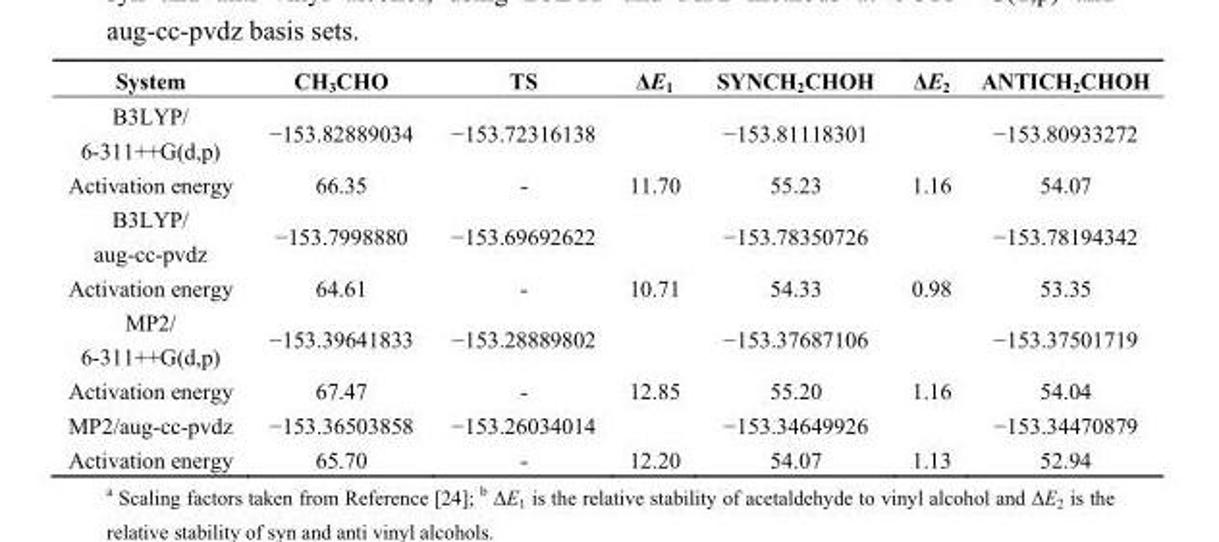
<table><thead><tr><td>System</td><td>CH<sub>3</sub>CHO</td><td>TS</td><td>ΔE<sub>1</sub></td><td>SYNCH<sub>2</sub>CHOH</td><td>ΔE<sub>2</sub></td><td>ANTICH<sub>2</sub>CHOH</td></tr></thead><tbody><tr><td>B3LYP/ 6-311++G(d,p)</td><td>−153.82889034</td><td>−153.72316138</td><td></td><td>−153.81118301</td><td></td><td>−153.80933272</td></tr><tr><td>Activation energy</td><td>66.35</td><td>-</td><td>11.70</td><td>55.23</td><td>1.16</td><td>54.07</td></tr><tr><td>B3LYP/ aug-cc-pvdz</td><td>−153.7998880</td><td>−153.69692622</td><td></td><td>−153.78350726</td><td></td><td>−153.78194342</td></tr><tr><td>Activation energy</td><td>64.61</td><td>-</td><td>10.71</td><td>54.33</td><td>0.98</td><td>53.35</td></tr><tr><td>MP2/ 6-311++G(d,p)</td><td>−153.39641833</td><td>−153.28889802</td><td></td><td>−153.37687106</td><td></td><td>−153.37501719</td></tr><tr><td>Activation energy</td><td>67.47</td><td>-</td><td>12.85</td><td>55.20</td><td>1.16</td><td>54.04</td></tr><tr><td>MP2/aug-cc-pvdz</td><td>−153.36503858</td><td>−153.26034014</td><td></td><td>−153.34649926</td><td></td><td>−153.34470879</td></tr><tr><td>Activation energy</td><td>65.70</td><td>-</td><td>12.20</td><td>54.07</td><td>1.13</td><td>52.94</td></tr></tbody></table>